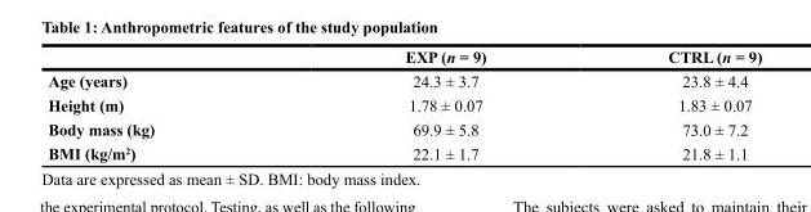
<table><thead><tr><td></td><td>EXP (n = 9)</td><td>CTRL (n = 9)</td></tr></thead><tbody><tr><td>Age (years)</td><td>24.3 ± 3.7</td><td>23.8 ± 4.4</td></tr><tr><td>Height (m)</td><td>1.78 ± 0.07</td><td>1.83 ± 0.07</td></tr><tr><td>Body mass (kg)</td><td>69.9 ± 5.8</td><td>73.0 ± 7.2</td></tr><tr><td>BMI (kg/m<sup>2</sup>)</td><td>22.1 ± 1.7</td><td>21.8 ± 1.1</td></tr></tbody></table>